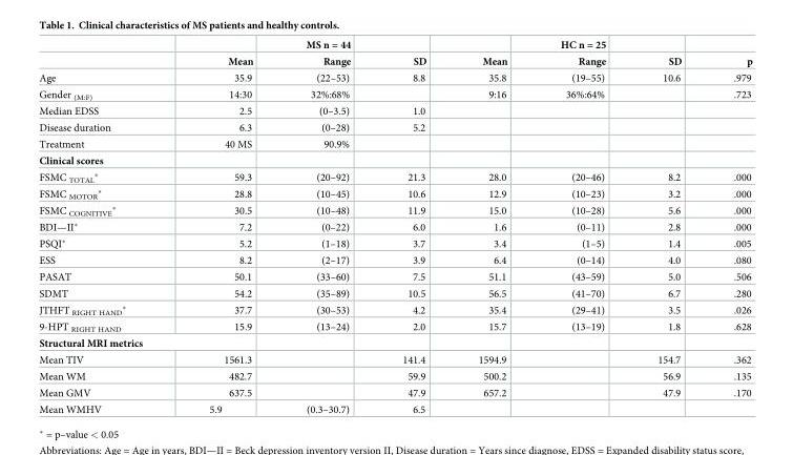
<table><thead><tr><td rowspan="2"></td><td rowspan="2">Mean</td><td rowspan="2">MS n = 44 Range</td><td rowspan="2">SD</td><td rowspan="2">Mean</td><td rowspan="2">HC n = 25 Range</td><td rowspan="2">SD</td><td rowspan="2">p</td></tr><tr></tr></thead><tbody><tr><td>Age</td><td>35.9</td><td>(22–53)</td><td>8.8</td><td>35.8</td><td>(19–55)</td><td>10.6</td><td>.979</td></tr><tr><td>Gender <sub>(M:F)</sub></td><td>14:30</td><td>32%:68%</td><td></td><td>9:16</td><td>36%:64%</td><td></td><td>.723</td></tr><tr><td>Median EDSS</td><td>2.5</td><td>(0–3.5)</td><td>1.0</td><td></td><td></td><td></td><td></td></tr><tr><td>Disease duration</td><td>6.3</td><td>(0–28)</td><td>5.2</td><td></td><td></td><td></td><td></td></tr><tr><td>Treatment</td><td>40 MS</td><td>90.9%</td><td></td><td></td><td></td><td></td><td></td></tr><tr><td colspan="8">Clinical scores</td></tr><tr><td>FSMC <sub>TOTAL</sub>*</td><td>59.3</td><td>(20–92)</td><td>21.3</td><td>28.0</td><td>(20–46)</td><td>8.2</td><td>.000</td></tr><tr><td>FSMC <sub>MOTOR</sub>*</td><td>28.8</td><td>(10–45)</td><td>10.6</td><td>12.9</td><td>(10–23)</td><td>3.2</td><td>.000</td></tr><tr><td>FSMC <sub>COGNITIVE</sub>*</td><td>30.5</td><td>(10–48)</td><td>11.9</td><td>15.0</td><td>(10–28)</td><td>5.6</td><td>.000</td></tr><tr><td>BDI—II*</td><td>7.2</td><td>(0–22)</td><td>6.0</td><td>1.6</td><td>(0–11)</td><td>2.8</td><td>.000</td></tr><tr><td>PSQI*</td><td>5.2</td><td>(1–18)</td><td>3.7</td><td>3.4</td><td>(1–5)</td><td>1.4</td><td>.005</td></tr><tr><td>ESS</td><td>8.2</td><td>(2–17)</td><td>3.9</td><td>6.4</td><td>(0–14)</td><td>4.0</td><td>.080</td></tr><tr><td>PASAT</td><td>50.1</td><td>(33–60)</td><td>7.5</td><td>51.1</td><td>(43–59)</td><td>5.0</td><td>.506</td></tr><tr><td>SDMT</td><td>54.2</td><td>(35–89)</td><td>10.5</td><td>56.5</td><td>(41–70)</td><td>6.7</td><td>.280</td></tr><tr><td>JTHFT <sub>RIGHT HAND</sub>*</td><td>37.7</td><td>(30–53)</td><td>4.2</td><td>35.4</td><td>(29–41)</td><td>3.5</td><td>.026</td></tr><tr><td>9-HPT <sub>RIGHT HAND</sub></td><td>15.9</td><td>(13–24)</td><td>2.0</td><td>15.7</td><td>(13–19)</td><td>1.8</td><td>.628</td></tr><tr><td colspan="8">Structural MRI metrics</td></tr><tr><td>Mean TIV</td><td>1561.3</td><td></td><td>141.4</td><td>1594.9</td><td></td><td>154.7</td><td>.362</td></tr><tr><td>Mean WM</td><td>482.7</td><td></td><td>59.9</td><td>500.2</td><td></td><td>56.9</td><td>.135</td></tr><tr><td>Mean GMV</td><td>637.5</td><td></td><td>47.9</td><td>657.2</td><td></td><td>47.9</td><td>.170</td></tr><tr><td>Mean WMHV</td><td>5.9</td><td>(0.3–30.7)</td><td>6.5</td><td></td><td></td><td></td><td></td></tr></tbody></table>